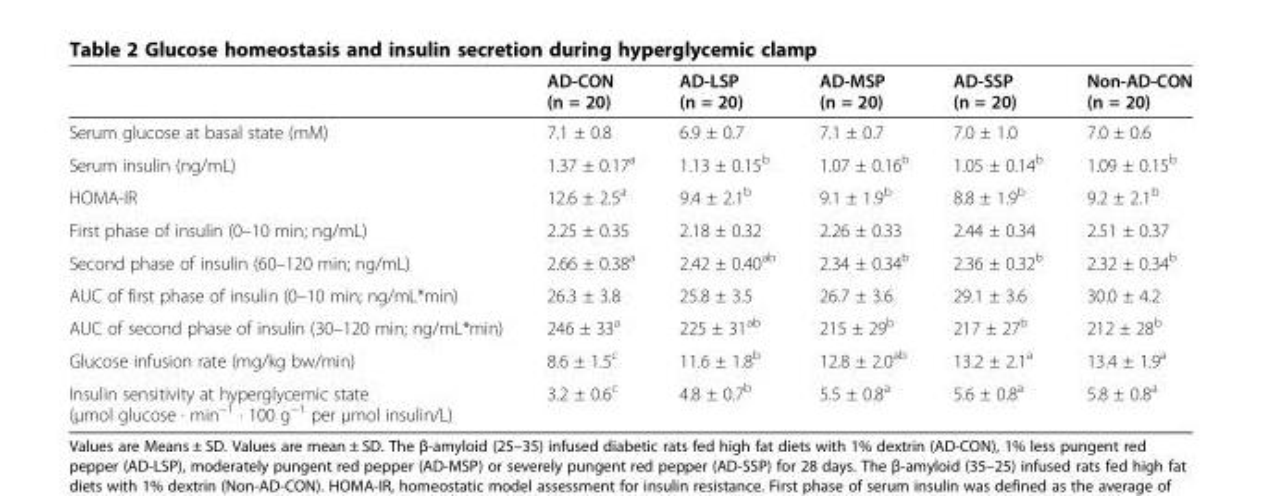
<table><thead><tr><td></td><td>AD-CON (n = 20)</td><td>AD-LSP (n = 20)</td><td>AD-MSP (n = 20)</td><td>AD-SSP (n = 20)</td><td>Non-AD-CON (n = 20)</td></tr></thead><tbody><tr><td>Serum glucose at basal state (mM)</td><td>7.1 ± 0.8</td><td>6.9 ± 0.7</td><td>7.1 ± 0.7</td><td>7.0 ± 1.0</td><td>7.0 ± 0.6</td></tr><tr><td>Serum insulin (ng/mL)</td><td>1.37 ± 0.17<sup>a</sup></td><td>1.13 ± 0.15<sup>b</sup></td><td>1.07 ± 0.16<sup>b</sup></td><td>1.05 ± 0.14<sup>b</sup></td><td>1.09 ± 0.15<sup>b</sup></td></tr><tr><td>HOMA-IR</td><td>12.6 ± 2.5<sup>a</sup></td><td>9.4 ± 2.1<sup>b</sup></td><td>9.1 ± 1.9<sup>b</sup></td><td>8.8 ± 1.9<sup>b</sup></td><td>9.2 ± 2.1<sup>b</sup></td></tr><tr><td>First phase of insulin (0–10 min; ng/mL)</td><td>2.25 ± 0.35</td><td>2.18 ± 0.32</td><td>2.26 ± 0.33</td><td>2.44 ± 0.34</td><td>2.51 ± 0.37</td></tr><tr><td>Second phase of insulin (60–120 min; ng/mL)</td><td>2.66 ± 0.38<sup>a</sup></td><td>2.42 ± 0.40<sup>ab</sup></td><td>2.34 ± 0.34<sup>b</sup></td><td>2.36 ± 0.32<sup>b</sup></td><td>2.32 ± 0.34<sup>b</sup></td></tr><tr><td>AUC of first phase of insulin (0–10 min; ng/mL*min)</td><td>26.3 ± 3.8</td><td>25.8 ± 3.5</td><td>26.7 ± 3.6</td><td>29.1 ± 3.6</td><td>30.0 ± 4.2</td></tr><tr><td>AUC of second phase of insulin (30–120 min; ng/mL*min)</td><td>246 ± 33<sup>a</sup></td><td>225 ± 31<sup>ab</sup></td><td>215 ± 29<sup>b</sup></td><td>217 ± 27<sup>b</sup></td><td>212 ± 28<sup>b</sup></td></tr><tr><td>Glucose infusion rate (mg/kg bw/min)</td><td>8.6 ± 1.5<sup>c</sup></td><td>11.6 ± 1.8<sup>b</sup></td><td>12.8 ± 2.0<sup>ab</sup></td><td>13.2 ± 2.1<sup>a</sup></td><td>13.4 ± 1.9<sup>a</sup></td></tr><tr><td>Insulin sensitivity at hyperglycemic state (μmol glucose · min<sup>−1</sup> · 100 g<sup>−1</sup> per μmol insulin/L)</td><td>3.2 ± 0.6<sup>c</sup></td><td>4.8 ± 0.7<sup>b</sup></td><td>5.5 ± 0.8<sup>a</sup></td><td>5.6 ± 0.8<sup>a</sup></td><td>5.8 ± 0.8<sup>a</sup></td></tr></tbody></table>